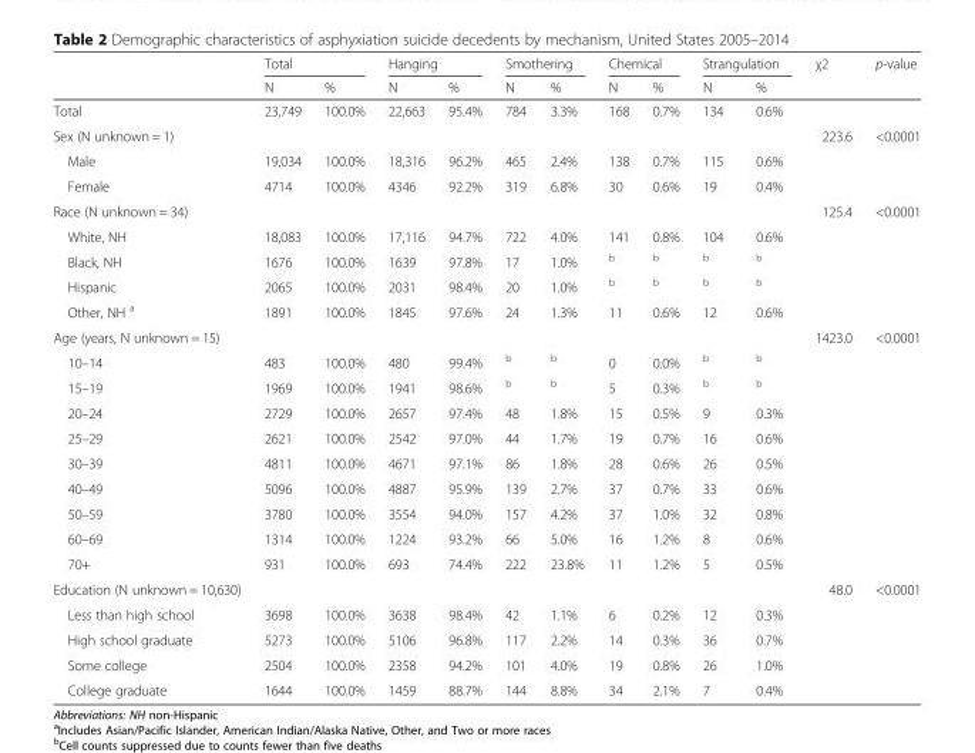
<table><thead><tr><td rowspan="2"></td><td colspan="2">Total</td><td colspan="2">Hanging</td><td colspan="2">Smothering</td><td colspan="2">Chemical</td><td colspan="2">Strangulation</td><td rowspan="2">χ2</td><td rowspan="2">p-value</td></tr><tr><td>N</td><td>%</td><td>N</td><td>%</td><td>N</td><td>%</td><td>N</td><td>%</td><td>N</td><td>%</td></tr></thead><tbody><tr><td>Total</td><td>23,749</td><td>100.0%</td><td>22,663</td><td>95.4%</td><td>784</td><td>3.3%</td><td>168</td><td>0.7%</td><td>134</td><td>0.6%</td><td></td><td></td></tr><tr><td>Sex (N unknown = 1)</td><td></td><td></td><td></td><td></td><td></td><td></td><td></td><td></td><td></td><td></td><td>223.6</td><td>&lt;0.0001</td></tr><tr><td>Male</td><td>19,034</td><td>100.0%</td><td>18,316</td><td>96.2%</td><td>465</td><td>2.4%</td><td>138</td><td>0.7%</td><td>115</td><td>0.6%</td><td></td><td></td></tr><tr><td>Female</td><td>4714</td><td>100.0%</td><td>4346</td><td>92.2%</td><td>319</td><td>6.8%</td><td>30</td><td>0.6%</td><td>19</td><td>0.4%</td><td></td><td></td></tr><tr><td>Race (N unknown = 34)</td><td></td><td></td><td></td><td></td><td></td><td></td><td></td><td></td><td></td><td></td><td>125.4</td><td>&lt;0.0001</td></tr><tr><td>White, NH</td><td>18,083</td><td>100.0%</td><td>17,116</td><td>94.7%</td><td>722</td><td>4.0%</td><td>141</td><td>0.8%</td><td>104</td><td>0.6%</td><td></td><td></td></tr><tr><td>Black, NH</td><td>1676</td><td>100.0%</td><td>1639</td><td>97.8%</td><td>17</td><td>1.0%</td><td><sup>b</sup></td><td><sup>b</sup></td><td><sup>b</sup></td><td><sup>b</sup></td><td></td><td></td></tr><tr><td>Hispanic</td><td>2065</td><td>100.0%</td><td>2031</td><td>98.4%</td><td>20</td><td>1.0%</td><td><sup>b</sup></td><td><sup>b</sup></td><td><sup>b</sup></td><td><sup>b</sup></td><td></td><td></td></tr><tr><td>Other, NH <sup>a</sup></td><td>1891</td><td>100.0%</td><td>1845</td><td>97.6%</td><td>24</td><td>1.3%</td><td>11</td><td>0.6%</td><td>12</td><td>0.6%</td><td></td><td></td></tr><tr><td>Age (years, N unknown = 15)</td><td></td><td></td><td></td><td></td><td></td><td></td><td></td><td></td><td></td><td></td><td>1423.0</td><td>&lt;0.0001</td></tr><tr><td>10–14</td><td>483</td><td>100.0%</td><td>480</td><td>99.4%</td><td><sup>b</sup></td><td><sup>b</sup></td><td>0</td><td>0.0%</td><td><sup>b</sup></td><td><sup>b</sup></td><td></td><td></td></tr><tr><td>15–19</td><td>1969</td><td>100.0%</td><td>1941</td><td>98.6%</td><td><sup>b</sup></td><td><sup>b</sup></td><td>5</td><td>0.3%</td><td><sup>b</sup></td><td><sup>b</sup></td><td></td><td></td></tr><tr><td>20–24</td><td>2729</td><td>100.0%</td><td>2657</td><td>97.4%</td><td>48</td><td>1.8%</td><td>15</td><td>0.5%</td><td>9</td><td>0.3%</td><td></td><td></td></tr><tr><td>25–29</td><td>2621</td><td>100.0%</td><td>2542</td><td>97.0%</td><td>44</td><td>1.7%</td><td>19</td><td>0.7%</td><td>16</td><td>0.6%</td><td></td><td></td></tr><tr><td>30–39</td><td>4811</td><td>100.0%</td><td>4671</td><td>97.1%</td><td>86</td><td>1.8%</td><td>28</td><td>0.6%</td><td>26</td><td>0.5%</td><td></td><td></td></tr><tr><td>40–49</td><td>5096</td><td>100.0%</td><td>4887</td><td>95.9%</td><td>139</td><td>2.7%</td><td>37</td><td>0.7%</td><td>33</td><td>0.6%</td><td></td><td></td></tr><tr><td>50–59</td><td>3780</td><td>100.0%</td><td>3554</td><td>94.0%</td><td>157</td><td>4.2%</td><td>37</td><td>1.0%</td><td>32</td><td>0.8%</td><td></td><td></td></tr><tr><td>60–69</td><td>1314</td><td>100.0%</td><td>1224</td><td>93.2%</td><td>66</td><td>5.0%</td><td>16</td><td>1.2%</td><td>8</td><td>0.6%</td><td></td><td></td></tr><tr><td>70+</td><td>931</td><td>100.0%</td><td>693</td><td>74.4%</td><td>222</td><td>23.8%</td><td>11</td><td>1.2%</td><td>5</td><td>0.5%</td><td></td><td></td></tr><tr><td>Education (N unknown = 10,630)</td><td></td><td></td><td></td><td></td><td></td><td></td><td></td><td></td><td></td><td></td><td>48.0</td><td>&lt;0.0001</td></tr><tr><td>Less than high school</td><td>3698</td><td>100.0%</td><td>3638</td><td>98.4%</td><td>42</td><td>1.1%</td><td>6</td><td>0.2%</td><td>12</td><td>0.3%</td><td></td><td></td></tr><tr><td>High school graduate</td><td>5273</td><td>100.0%</td><td>5106</td><td>96.8%</td><td>117</td><td>2.2%</td><td>14</td><td>0.3%</td><td>36</td><td>0.7%</td><td></td><td></td></tr><tr><td>Some college</td><td>2504</td><td>100.0%</td><td>2358</td><td>94.2%</td><td>101</td><td>4.0%</td><td>19</td><td>0.8%</td><td>26</td><td>1.0%</td><td></td><td></td></tr><tr><td>College graduate</td><td>1644</td><td>100.0%</td><td>1459</td><td>88.7%</td><td>144</td><td>8.8%</td><td>34</td><td>2.1%</td><td>7</td><td>0.4%</td><td></td><td></td></tr></tbody></table>